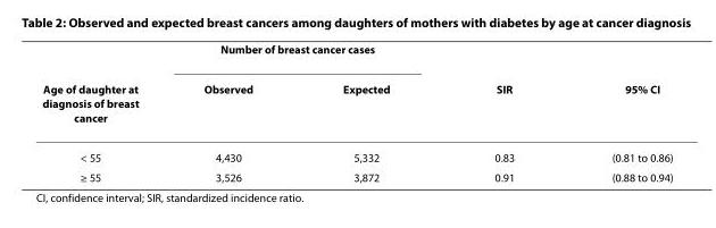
<table><thead><tr><td rowspan="2">Age of daughter at diagnosis of breast cancer</td><td colspan="2">Number of breast cancer cases</td><td rowspan="2">SIR</td><td rowspan="2">95% CI</td></tr><tr><td>Observed</td><td>Expected</td></tr></thead><tbody><tr><td>&lt; 55</td><td>4,430</td><td>5,332</td><td>0.83</td><td>(0.81 to 0.86)</td></tr><tr><td>≥ 55</td><td>3,526</td><td>3,872</td><td>0.91</td><td>(0.88 to 0.94)</td></tr></tbody></table>